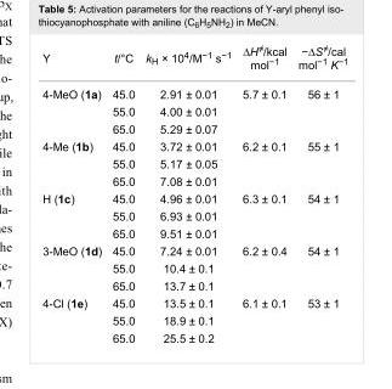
<table><tbody><tr><td>Y</td><td>t/°C</td><td>k<sub>H</sub> × 10<sup>4</sup>/M<sup>−1</sup> s<sup>−1</sup></td><td>∆H<sup>≠</sup>/kcal mol<sup>−1</sup></td><td>−∆S<sup>≠</sup>/cal mol<sup>−1</sup> K<sup>−1</sup></td></tr><tr><td rowspan="3">4-MeO (1a)</td><td>45.0</td><td>2.91 ± 0.01</td><td>5.7 ± 0.1</td><td>56 ± 1</td></tr><tr><td>55.0</td><td>4.00 ± 0.01</td><td></td><td></td></tr><tr><td>65.0</td><td>5.29 ± 0.07</td><td></td><td></td></tr><tr><td rowspan="3">4-Me (1b)</td><td>45.0</td><td>3.72 ± 0.01</td><td>6.2 ± 0.1</td><td>55 ± 1</td></tr><tr><td>55.0</td><td>5.17 ± 0.05</td><td></td><td></td></tr><tr><td>65.0</td><td>7.08 ± 0.01</td><td></td><td></td></tr><tr><td rowspan="3">H (1c)</td><td>45.0</td><td>4.96 ± 0.01</td><td>6.3 ± 0.1</td><td>54 ± 1</td></tr><tr><td>55.0</td><td>6.93 ± 0.01</td><td></td><td></td></tr><tr><td>65.0</td><td>9.51 ± 0.01</td><td></td><td></td></tr><tr><td rowspan="3">3-MeO (1d)</td><td>45.0</td><td>7.24 ± 0.01</td><td>6.2 ± 0.4</td><td>54 ± 1</td></tr><tr><td>55.0</td><td>10.4 ± 0.1</td><td></td><td></td></tr><tr><td>65.0</td><td>13.7 ± 0.1</td><td></td><td></td></tr><tr><td rowspan="3">4-Cl (1e)</td><td>45.0</td><td>13.5 ± 0.1</td><td>6.1 ± 0.1</td><td>53 ± 1</td></tr><tr><td>55.0</td><td>18.9 ± 0.1</td><td></td><td></td></tr><tr><td>65.0</td><td>25.5 ± 0.2</td><td></td><td></td></tr></tbody></table>